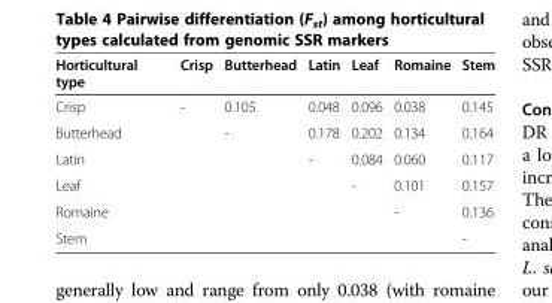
<table><thead><tr><td>Horticultural type</td><td>Crisp</td><td>Butterhead</td><td>Latin</td><td>Leaf</td><td>Romaine</td><td>Stem</td></tr></thead><tbody><tr><td>Crisp</td><td>-</td><td>0.105</td><td>0.048</td><td>0.096</td><td>0.038</td><td>0.145</td></tr><tr><td>Butterhead</td><td></td><td>-</td><td>0.178</td><td>0.202</td><td>0.134</td><td>0.164</td></tr><tr><td>Latin</td><td></td><td></td><td>-</td><td>0.084</td><td>0.060</td><td>0.117</td></tr><tr><td>Leaf</td><td></td><td></td><td></td><td>-</td><td>0.101</td><td>0.157</td></tr><tr><td>Romaine</td><td></td><td></td><td></td><td></td><td>-</td><td>0.136</td></tr><tr><td>Stem</td><td></td><td></td><td></td><td></td><td></td><td>-</td></tr></tbody></table>